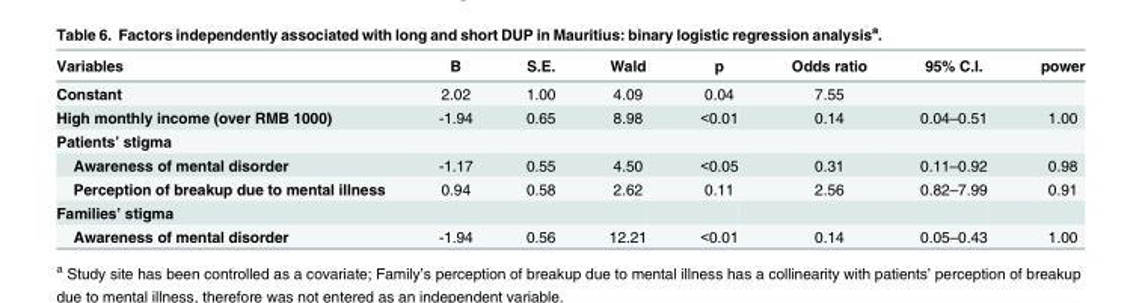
<table><thead><tr><td>Variables</td><td>B</td><td>S.E.</td><td>Wald</td><td>p</td><td>Odds ratio</td><td>95% C.I.</td><td>power</td></tr></thead><tbody><tr><td>Constant</td><td>2.02</td><td>1.00</td><td>4.09</td><td>0.04</td><td>7.55</td><td></td><td></td></tr><tr><td>High monthly income (over RMB 1000)</td><td>-1.94</td><td>0.65</td><td>8.98</td><td>&lt;0.01</td><td>0.14</td><td>0.04–0.51</td><td>1.00</td></tr><tr><td colspan="8">Patients’ stigma</td></tr><tr><td>Awareness of mental disorder</td><td>-1.17</td><td>0.55</td><td>4.50</td><td>&lt;0.05</td><td>0.31</td><td>0.11–0.92</td><td>0.98</td></tr><tr><td>Perception of breakup due to mental illness</td><td>0.94</td><td>0.58</td><td>2.62</td><td>0.11</td><td>2.56</td><td>0.82–7.99</td><td>0.91</td></tr><tr><td colspan="8">Families’ stigma</td></tr><tr><td>Awareness of mental disorder</td><td>-1.94</td><td>0.56</td><td>12.21</td><td>&lt;0.01</td><td>0.14</td><td>0.05–0.43</td><td>1.00</td></tr></tbody></table>